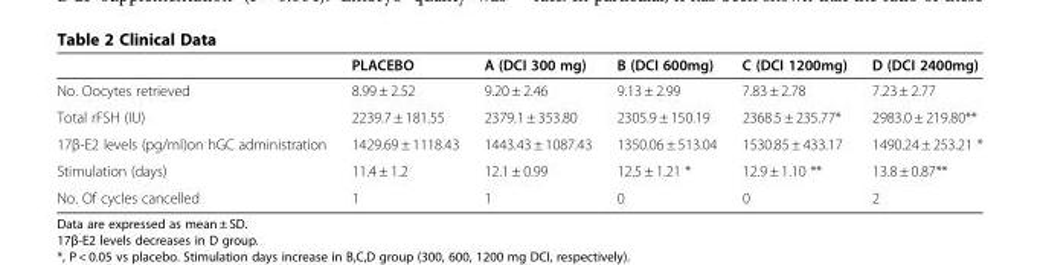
<table><thead><tr><td></td><td>PLACEBO</td><td>A (DCI 300 mg)</td><td>B (DCI 600mg)</td><td>C (DCI 1200mg)</td><td>D (DCI 2400mg)</td></tr></thead><tbody><tr><td>No. Oocytes retrieved</td><td>8.99 ± 2.52</td><td>9.20 ± 2.46</td><td>9.13 ± 2.99</td><td>7.83 ± 2.78</td><td>7.23 ± 2.77</td></tr><tr><td>Total rFSH (IU)</td><td>2239.7 ± 181.55</td><td>2379.1 ± 353.80</td><td>2305.9 ± 150.19</td><td>2368.5 ± 235.77*</td><td>2983.0 ± 219.80**</td></tr><tr><td>17β-E2 levels (pg/ml)on hGC administration</td><td>1429.69 ± 1118.43</td><td>1443.43 ± 1087.43</td><td>1350.06 ± 513.04</td><td>1530.85 ± 433.17</td><td>1490.24 ± 253.21 *</td></tr><tr><td>Stimulation (days)</td><td>11.4 ± 1.2</td><td>12.1 ± 0.99</td><td>12.5 ± 1.21 *</td><td>12.9 ± 1.10 **</td><td>13.8 ± 0.87**</td></tr><tr><td>No. Of cycles cancelled</td><td>1</td><td>1</td><td>0</td><td>0</td><td>2</td></tr></tbody></table>